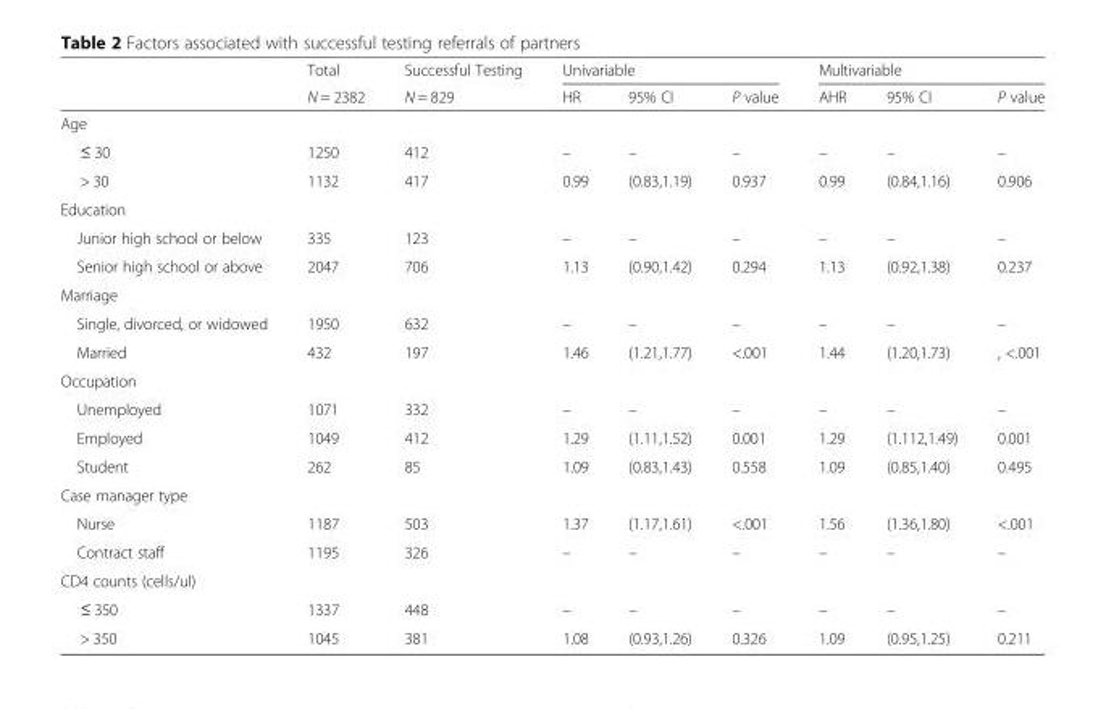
<table><thead><tr><td rowspan="2"></td><td rowspan="2">Total N = 2382</td><td rowspan="2">Successful Testing N = 829</td><td colspan="3">Univariable</td><td colspan="3">Multivariable</td></tr><tr><td>HR</td><td>95% CI</td><td>P value</td><td>AHR</td><td>95% CI</td><td>P value</td></tr></thead><tbody><tr><td colspan="9">Age</td></tr><tr><td>≤ 30</td><td>1250</td><td>412</td><td>–</td><td>–</td><td>–</td><td>–</td><td>–</td><td>–</td></tr><tr><td>&gt; 30</td><td>1132</td><td>417</td><td>0.99</td><td>(0.83,1.19)</td><td>0.937</td><td>0.99</td><td>(0.84,1.16)</td><td>0.906</td></tr><tr><td colspan="9">Education</td></tr><tr><td>Junior high school or below</td><td>335</td><td>123</td><td>–</td><td>–</td><td>–</td><td>–</td><td>–</td><td>–</td></tr><tr><td>Senior high school or above</td><td>2047</td><td>706</td><td>1.13</td><td>(0.90,1.42)</td><td>0.294</td><td>1.13</td><td>(0.92,1.38)</td><td>0.237</td></tr><tr><td colspan="9">Marriage</td></tr><tr><td>Single, divorced, or widowed</td><td>1950</td><td>632</td><td>–</td><td>–</td><td>–</td><td>–</td><td>–</td><td>–</td></tr><tr><td>Married</td><td>432</td><td>197</td><td>1.46</td><td>(1.21,1.77)</td><td>&lt;.001</td><td>1.44</td><td>(1.20,1.73)</td><td>, &lt;.001</td></tr><tr><td colspan="9">Occupation</td></tr><tr><td>Unemployed</td><td>1071</td><td>332</td><td>–</td><td>–</td><td>–</td><td>–</td><td>–</td><td>–</td></tr><tr><td>Employed</td><td>1049</td><td>412</td><td>1.29</td><td>(1.11,1.52)</td><td>0.001</td><td>1.29</td><td>(1.112,1.49)</td><td>0.001</td></tr><tr><td>Student</td><td>262</td><td>85</td><td>1.09</td><td>(0.83,1.43)</td><td>0.558</td><td>1.09</td><td>(0.85,1.40)</td><td>0.495</td></tr><tr><td colspan="9">Case manager type</td></tr><tr><td>Nurse</td><td>1187</td><td>503</td><td>1.37</td><td>(1.17,1.61)</td><td>&lt;.001</td><td>1.56</td><td>(1.36,1.80)</td><td>&lt;.001</td></tr><tr><td>Contract staff</td><td>1195</td><td>326</td><td>–</td><td>–</td><td>–</td><td>–</td><td>–</td><td>–</td></tr><tr><td colspan="9">CD4 counts (cells/ul)</td></tr><tr><td>≤ 350</td><td>1337</td><td>448</td><td>–</td><td>–</td><td>–</td><td>–</td><td>–</td><td>–</td></tr><tr><td>&gt; 350</td><td>1045</td><td>381</td><td>1.08</td><td>(0.93,1.26)</td><td>0.326</td><td>1.09</td><td>(0.95,1.25)</td><td>0.211</td></tr></tbody></table>